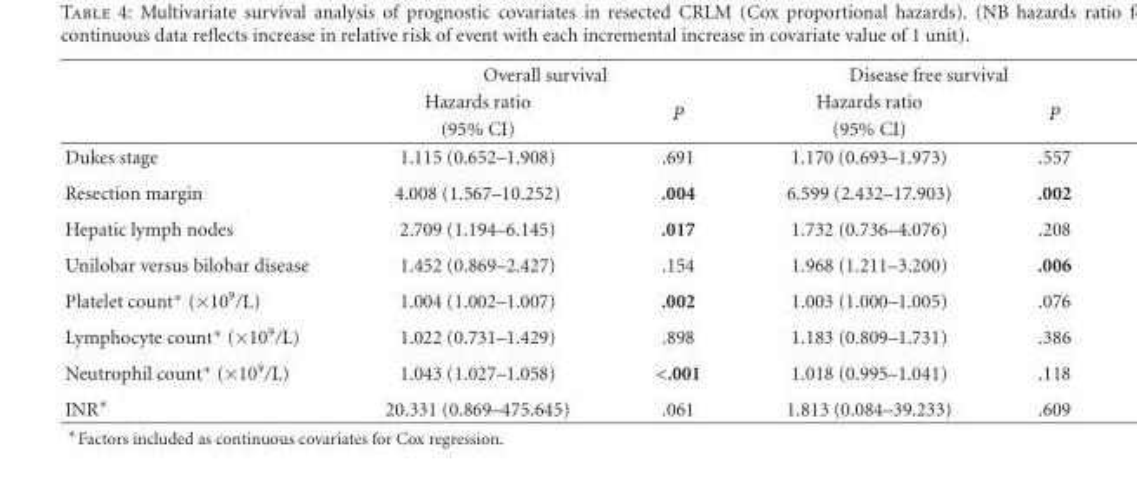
<table><thead><tr><td rowspan="3"></td><td colspan="2">Overall survival</td><td colspan="2">Disease free survival</td></tr><tr><td rowspan="2">Hazards ratio (95% CI)</td><td rowspan="2">P</td><td rowspan="2">Hazards ratio (95% CI)</td><td rowspan="2">P</td></tr><tr></tr></thead><tbody><tr><td>Dukes stage</td><td>1.115 (0.652–1.908)</td><td>.691</td><td>1.170 (0.693–1.973)</td><td>.557</td></tr><tr><td>Resection margin</td><td>4.008 (1.567–10.252)</td><td>.004</td><td>6.599 (2.432–17.903)</td><td>.002</td></tr><tr><td>Hepatic lymph nodes</td><td>2.709 (1.194–6.145)</td><td>.017</td><td>1.732 (0.736–4.076)</td><td>.208</td></tr><tr><td>Unilobar versus bilobar disease</td><td>1.452 (0.869–2.427)</td><td>.154</td><td>1.968 (1.211–3.200)</td><td>.006</td></tr><tr><td>Platelet count∗ (×109/L)</td><td>1.004 (1.002–1.007)</td><td>.002</td><td>1.003 (1.000–1.005)</td><td>.076</td></tr><tr><td>Lymphocyte count∗ (×109/L)</td><td>1.022 (0.731–1.429)</td><td>.898</td><td>1.183 (0.809–1.731)</td><td>.386</td></tr><tr><td>Neutrophil count∗ (×109/L)</td><td>1.043 (1.027–1.058)</td><td>&lt;.001</td><td>1.018 (0.995–1.041)</td><td>.118</td></tr><tr><td>INR∗</td><td>20.331 (0.869–475.645)</td><td>.061</td><td>1.813 (0.084–39.233)</td><td>.609</td></tr></tbody></table>